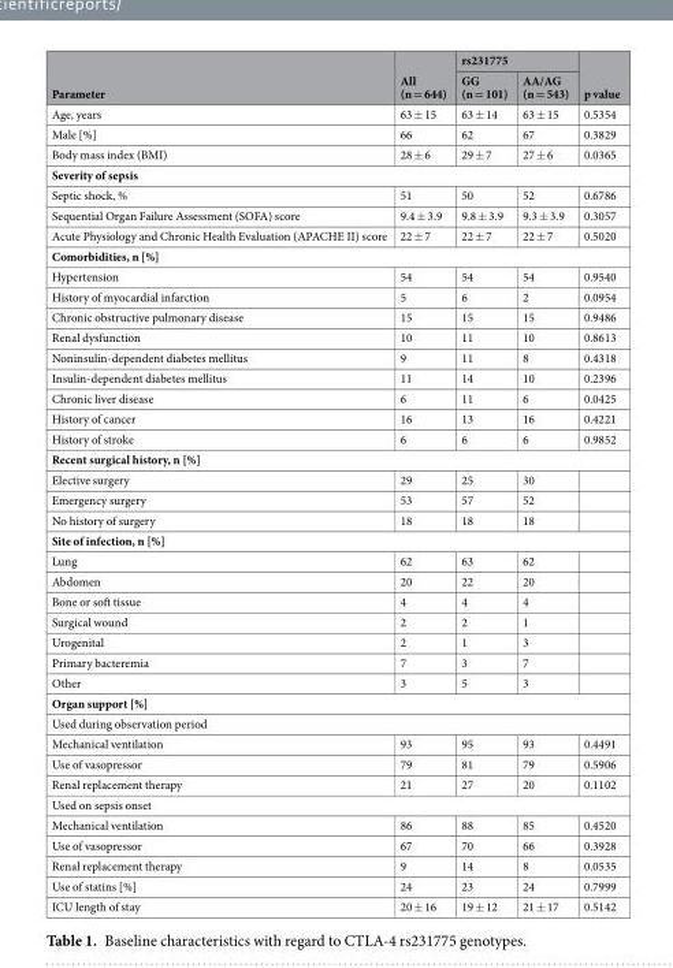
<table><thead><tr><td rowspan="2">Parameter</td><td rowspan="2">All (n = 644)</td><td colspan="2">rs231775</td><td rowspan="2">p value</td></tr><tr><td>GG (n = 101)</td><td>AA/AG (n = 543)</td></tr></thead><tbody><tr><td>Age, years</td><td>63 ± 15</td><td>63 ± 14</td><td>63 ± 15</td><td>0.5354</td></tr><tr><td>Male [%]</td><td>66</td><td>62</td><td>67</td><td>0.3829</td></tr><tr><td>Body mass index (BMI)</td><td>28 ± 6</td><td>29 ± 7</td><td>27 ± 6</td><td>0.0365</td></tr><tr><td colspan="5">Severity of sepsis</td></tr><tr><td>Septic shock, %</td><td>51</td><td>50</td><td>52</td><td>0.6786</td></tr><tr><td>Sequential Organ Failure Assessment (SOFA) score</td><td>9.4 ± 3.9</td><td>9.8 ± 3.9</td><td>9.3 ± 3.9</td><td>0.3057</td></tr><tr><td>Acute Physiology and Chronic Health Evaluation (APACHE II) score</td><td>22 ± 7</td><td>22 ± 7</td><td>22 ± 7</td><td>0.5020</td></tr><tr><td colspan="5">Comorbidities, n [%]</td></tr><tr><td>Hypertension</td><td>54</td><td>54</td><td>54</td><td>0.9540</td></tr><tr><td>History of myocardial infarction</td><td>5</td><td>6</td><td>2</td><td>0.0954</td></tr><tr><td>Chronic obstructive pulmonary disease</td><td>15</td><td>15</td><td>15</td><td>0.9486</td></tr><tr><td>Renal dysfunction</td><td>10</td><td>11</td><td>10</td><td>0.8613</td></tr><tr><td>Noninsulin-dependent diabetes mellitus</td><td>9</td><td>11</td><td>8</td><td>0.4318</td></tr><tr><td>Insulin-dependent diabetes mellitus</td><td>11</td><td>14</td><td>10</td><td>0.2396</td></tr><tr><td>Chronic liver disease</td><td>6</td><td>11</td><td>6</td><td>0.0425</td></tr><tr><td>History of cancer</td><td>16</td><td>13</td><td>16</td><td>0.4221</td></tr><tr><td>History of stroke</td><td>6</td><td>6</td><td>6</td><td>0.9852</td></tr><tr><td colspan="5">Recent surgical history, n [%]</td></tr><tr><td>Elective surgery</td><td>29</td><td>25</td><td>30</td><td></td></tr><tr><td>Emergency surgery</td><td>53</td><td>57</td><td>52</td><td></td></tr><tr><td>No history of surgery</td><td>18</td><td>18</td><td>18</td><td></td></tr><tr><td colspan="5">Site of infection, n [%]</td></tr><tr><td>Lung</td><td>62</td><td>63</td><td>62</td><td></td></tr><tr><td>Abdomen</td><td>20</td><td>22</td><td>20</td><td></td></tr><tr><td>Bone or soft tissue</td><td>4</td><td>4</td><td>4</td><td></td></tr><tr><td>Surgical wound</td><td>2</td><td>2</td><td>1</td><td></td></tr><tr><td>Urogenital</td><td>2</td><td>1</td><td>3</td><td></td></tr><tr><td>Primary bacteremia</td><td>7</td><td>3</td><td>7</td><td></td></tr><tr><td>Other</td><td>3</td><td>5</td><td>3</td><td></td></tr><tr><td colspan="5">Organ support [%]</td></tr><tr><td colspan="5">Used during observation period</td></tr><tr><td>Mechanical ventilation</td><td>93</td><td>95</td><td>93</td><td>0.4491</td></tr><tr><td>Use of vasopressor</td><td>79</td><td>81</td><td>79</td><td>0.5906</td></tr><tr><td>Renal replacement therapy</td><td>21</td><td>27</td><td>20</td><td>0.1102</td></tr><tr><td colspan="5">Used on sepsis onset</td></tr><tr><td>Mechanical ventilation</td><td>86</td><td>88</td><td>85</td><td>0.4520</td></tr><tr><td>Use of vasopressor</td><td>67</td><td>70</td><td>66</td><td>0.3928</td></tr><tr><td>Renal replacement therapy</td><td>9</td><td>14</td><td>8</td><td>0.0535</td></tr><tr><td>Use of statins [%]</td><td>24</td><td>23</td><td>24</td><td>0.7999</td></tr><tr><td>ICU length of stay</td><td>20 ± 16</td><td>19 ± 12</td><td>21 ± 17</td><td>0.5142</td></tr></tbody></table>